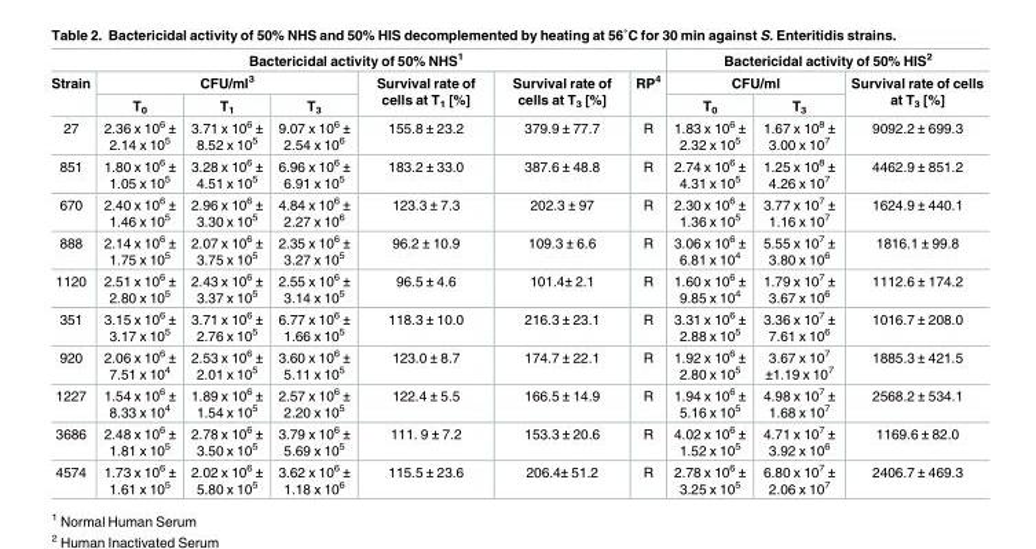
<table><thead><tr><td colspan="7">Bactericidal activity of 50% NHS<sup>1</sup></td><td colspan="3">Bactericidal activity of 50% HIS<sup>2</sup></td></tr><tr><td rowspan="2">Strain</td><td colspan="3">CFU/ml<sup>3</sup></td><td rowspan="2">Survival rate of cells at T<sub>1</sub> [%]</td><td rowspan="2">Survival rate of cells at T<sub>3</sub> [%]</td><td rowspan="2">RP<sup>4</sup></td><td colspan="2">CFU/ml</td><td rowspan="2">Survival rate of cells at T<sub>3</sub> [%]</td></tr><tr><td>T<sub>0</sub></td><td>T<sub>1</sub></td><td>T<sub>3</sub></td><td>T<sub>0</sub></td><td>T<sub>3</sub></td></tr></thead><tbody><tr><td>27</td><td>2.36 x 10<sup>6</sup> ± 2.14 x 10<sup>5</sup></td><td>3.71 x 10<sup>6</sup> ± 8.52 x 10<sup>5</sup></td><td>9.07 x 10<sup>6</sup> ± 2.54 x 10<sup>6</sup></td><td>155.8 ± 23.2</td><td>379.9 ± 77.7</td><td>R</td><td>1.83 x 10<sup>6</sup> ± 2.32 x 10<sup>5</sup></td><td>1.67 x 10<sup>8</sup> ± 3.00 x 10<sup>7</sup></td><td>9092.2 ± 699.3</td></tr><tr><td>851</td><td>1.80 x 10<sup>6</sup> ± 1.05 x 10<sup>5</sup></td><td>3.28 x 10<sup>6</sup> ± 4.51 x 10<sup>5</sup></td><td>6.96 x 10<sup>6</sup> ± 6.91 x 10<sup>5</sup></td><td>183.2 ± 33.0</td><td>387.6 ± 48.8</td><td>R</td><td>2.74 x 10<sup>6</sup> ± 4.31 x 10<sup>5</sup></td><td>1.25 x 10<sup>8</sup> ± 4.26 x 10<sup>7</sup></td><td>4462.9 ± 851.2</td></tr><tr><td>670</td><td>2.40 x 10<sup>6</sup> ± 1.46 x 10<sup>5</sup></td><td>2.96 x 10<sup>6</sup> ± 3.30 x 10<sup>5</sup></td><td>4.84 x 10<sup>6</sup> ± 2.27 x 10<sup>6</sup></td><td>123.3 ± 7.3</td><td>202.3 ± 97</td><td>R</td><td>2.30 x 10<sup>6</sup> ± 1.36 x 10<sup>5</sup></td><td>3.77 x 10<sup>7</sup> ± 1.16 x 10<sup>7</sup></td><td>1624.9 ± 440.1</td></tr><tr><td>888</td><td>2.14 x 10<sup>6</sup> ± 1.75 x 10<sup>5</sup></td><td>2.07 x 10<sup>6</sup> ± 3.75 x 10<sup>5</sup></td><td>2.35 x 10<sup>6</sup> ± 3.27 x 10<sup>5</sup></td><td>96.2 ± 10.9</td><td>109.3 ± 6.6</td><td>R</td><td>3.06 x 10<sup>6</sup> ± 6.81 x 10<sup>4</sup></td><td>5.55 x 10<sup>7</sup> ± 3.80 x 10<sup>6</sup></td><td>1816.1 ± 99.8</td></tr><tr><td>1120</td><td>2.51 x 10<sup>6</sup> ± 2.80 x 10<sup>5</sup></td><td>2.43 x 10<sup>6</sup> ± 3.37 x 10<sup>5</sup></td><td>2.55 x 10<sup>6</sup> ± 3.14 x 10<sup>5</sup></td><td>96.5 ± 4.6</td><td>101.4± 2.1</td><td>R</td><td>1.60 x 10<sup>6</sup> ± 9.85 x 10<sup>4</sup></td><td>1.79 x 10<sup>7</sup> ± 3.67 x 10<sup>6</sup></td><td>1112.6 ± 174.2</td></tr><tr><td>351</td><td>3.15 x 10<sup>6</sup> ± 3.17 x 10<sup>5</sup></td><td>3.71 x 10<sup>6</sup> ± 2.76 x 10<sup>5</sup></td><td>6.77 x 10<sup>6</sup> ± 1.66 x 10<sup>5</sup></td><td>118.3 ± 10.0</td><td>216.3 ± 23.1</td><td>R</td><td>3.31 x 10<sup>6</sup> ± 2.88 x 10<sup>5</sup></td><td>3.36 x 10<sup>7</sup> ± 7.61 x 10<sup>6</sup></td><td>1016.7 ± 208.0</td></tr><tr><td>920</td><td>2.06 x 10<sup>6</sup> ± 7.51 x 10<sup>4</sup></td><td>2.53 x 10<sup>6</sup> ± 2.01 x 10<sup>5</sup></td><td>3.60 x 10<sup>6</sup> ± 5.11 x 10<sup>5</sup></td><td>123.0 ± 8.7</td><td>174.7 ± 22.1</td><td>R</td><td>1.92 x 10<sup>6</sup> ± 2.80 x 10<sup>5</sup></td><td>3.67 x 10<sup>7</sup> ±1.19 x 10<sup>7</sup></td><td>1885.3 ± 421.5</td></tr><tr><td>1227</td><td>1.54 x 10<sup>6</sup> ± 8.33 x 10<sup>4</sup></td><td>1.89 x 10<sup>6</sup> ± 1.54 x 10<sup>5</sup></td><td>2.57 x 10<sup>6</sup> ± 2.20 x 10<sup>5</sup></td><td>122.4 ± 5.5</td><td>166.5 ± 14.9</td><td>R</td><td>1.94 x 10<sup>6</sup> ± 5.16 x 10<sup>5</sup></td><td>4.98 x 10<sup>7</sup> ± 1.68 x 10<sup>7</sup></td><td>2568.2 ± 534.1</td></tr><tr><td>3686</td><td>2.48 x 10<sup>6</sup> ± 1.81 x 10<sup>5</sup></td><td>2.78 x 10<sup>6</sup> ± 3.50 x 10<sup>5</sup></td><td>3.79 x 10<sup>6</sup> ± 5.69 x 10<sup>5</sup></td><td>111. 9 ± 7.2</td><td>153.3 ± 20.6</td><td>R</td><td>4.02 x 10<sup>6</sup> ± 1.52 x 10<sup>5</sup></td><td>4.71 x 10<sup>7</sup> ± 3.92 x 10<sup>6</sup></td><td>1169.6 ± 82.0</td></tr><tr><td>4574</td><td>1.73 x 10<sup>6</sup> ± 1.61 x 10<sup>5</sup></td><td>2.02 x 10<sup>6</sup> ± 5.80 x 10<sup>5</sup></td><td>3.62 x 10<sup>6</sup> ± 1.18 x 10<sup>6</sup></td><td>115.5 ± 23.6</td><td>206.4± 51.2</td><td>R</td><td>2.78 x 10<sup>6</sup> ± 3.25 x 10<sup>5</sup></td><td>6.80 x 10<sup>7</sup> ± 2.06 x 10<sup>7</sup></td><td>2406.7 ± 469.3</td></tr></tbody></table>